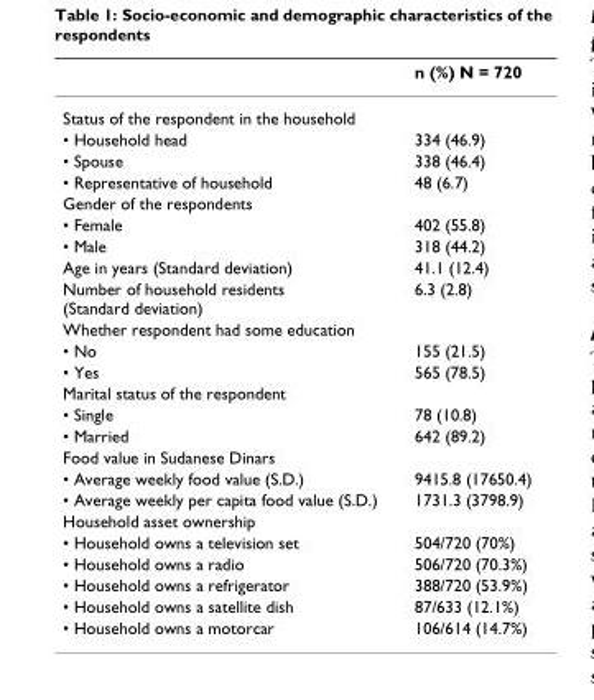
<table><thead><tr><td></td><td>n (%) N = 720</td></tr></thead><tbody><tr><td colspan="2">Status of the respondent in the household</td></tr><tr><td>• Household head</td><td>334 (46.9)</td></tr><tr><td>• Spouse</td><td>338 (46.4)</td></tr><tr><td>• Representative of household</td><td>48 (6.7)</td></tr><tr><td colspan="2">Gender of the respondents</td></tr><tr><td>• Female</td><td>402 (55.8)</td></tr><tr><td>• Male</td><td>318 (44.2)</td></tr><tr><td>Age in years (Standard deviation)</td><td>41.1 (12.4)</td></tr><tr><td>Number of household residents (Standard deviation)</td><td>6.3 (2.8)</td></tr><tr><td colspan="2">Whether respondent had some education</td></tr><tr><td>• No</td><td>155 (21.5)</td></tr><tr><td>• Yes</td><td>565 (78.5)</td></tr><tr><td colspan="2">Marital status of the respondent</td></tr><tr><td>• Single</td><td>78 (10.8)</td></tr><tr><td>• Married</td><td>642 (89.2)</td></tr><tr><td colspan="2">Food value in Sudanese Dinars</td></tr><tr><td>• Average weekly food value (S.D.)</td><td>9415.8 (17650.4)</td></tr><tr><td>• Average weekly per capita food value (S.D.)</td><td>1731.3 (3798.9)</td></tr><tr><td colspan="2">Household asset ownership</td></tr><tr><td>• Household owns a television set</td><td>504/720 (70%)</td></tr><tr><td>• Household owns a radio</td><td>506/720 (70.3%)</td></tr><tr><td>• Household owns a refrigerator</td><td>388/720 (53.9%)</td></tr><tr><td>• Household owns a satellite dish</td><td>87/633 (12.1%)</td></tr><tr><td>• Household owns a motorcar</td><td>106/614 (14.7%)</td></tr></tbody></table>